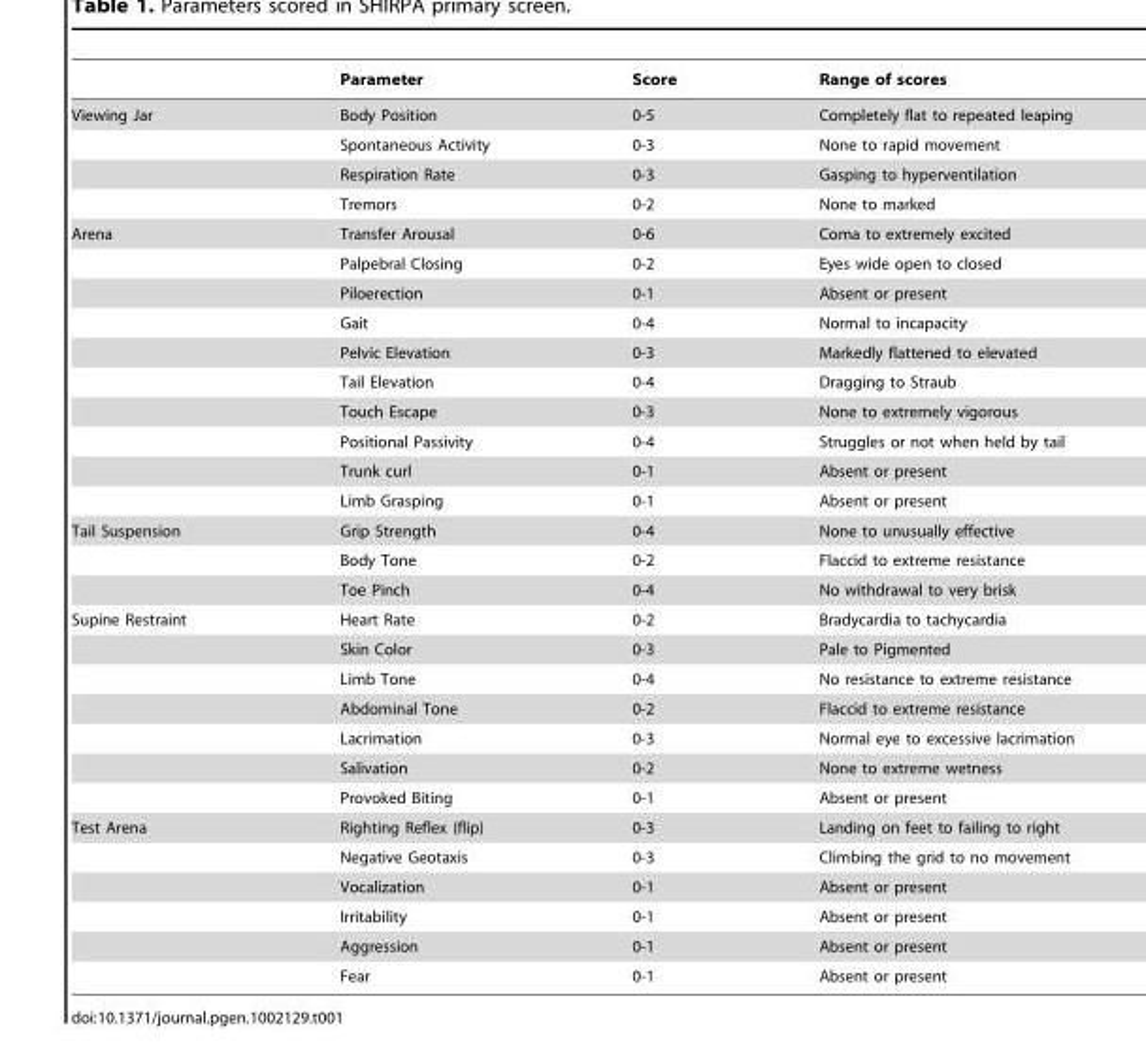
<table><thead><tr><td></td><td>Parameter</td><td>Score</td><td>Range of scores</td></tr></thead><tbody><tr><td rowspan="4">Viewing Jar</td><td>Body Position</td><td>0-5</td><td>Completely flat to repeated leaping</td></tr><tr><td>Spontaneous Activity</td><td>0-3</td><td>None to rapid movement</td></tr><tr><td>Respiration Rate</td><td>0-3</td><td>Gasping to hyperventilation</td></tr><tr><td>Tremors</td><td>0-2</td><td>None to marked</td></tr><tr><td rowspan="10">Arena</td><td>Transfer Arousal</td><td>0-6</td><td>Coma to extremely excited</td></tr><tr><td>Palpebral Closing</td><td>0-2</td><td>Eyes wide open to closed</td></tr><tr><td>Piloerection</td><td>0-1</td><td>Absent or present</td></tr><tr><td>Gait</td><td>0-4</td><td>Normal to incapacity</td></tr><tr><td>Pelvic Elevation</td><td>0-3</td><td>Markedly flattened to elevated</td></tr><tr><td>Tail Elevation</td><td>0-4</td><td>Dragging to Straub</td></tr><tr><td>Touch Escape</td><td>0-3</td><td>None to extremely vigorous</td></tr><tr><td>Positional Passivity</td><td>0-4</td><td>Struggles or not when held by tail</td></tr><tr><td>Trunk curl</td><td>0-1</td><td>Absent or present</td></tr><tr><td>Limb Grasping</td><td>0-1</td><td>Absent or present</td></tr><tr><td rowspan="3">Tail Suspension</td><td>Grip Strength</td><td>0-4</td><td>None to unusually effective</td></tr><tr><td>Body Tone</td><td>0-2</td><td>Flaccid to extreme resistance</td></tr><tr><td>Toe Pinch</td><td>0-4</td><td>No withdrawal to very brisk</td></tr><tr><td rowspan="7">Supine Restraint</td><td>Heart Rate</td><td>0-2</td><td>Bradycardia to tachycardia</td></tr><tr><td>Skin Color</td><td>0-3</td><td>Pale to Pigmented</td></tr><tr><td>Limb Tone</td><td>0-4</td><td>No resistance to extreme resistance</td></tr><tr><td>Abdominal Tone</td><td>0-2</td><td>Flaccid to extreme resistance</td></tr><tr><td>Lacrimation</td><td>0-3</td><td>Normal eye to excessive lacrimation</td></tr><tr><td>Salivation</td><td>0-2</td><td>None to extreme wetness</td></tr><tr><td>Provoked Biting</td><td>0-1</td><td>Absent or present</td></tr><tr><td rowspan="6">Test Arena</td><td>Righting Reflex (flip)</td><td>0-3</td><td>Landing on feet to failing to right</td></tr><tr><td>Negative Geotaxis</td><td>0-3</td><td>Climbing the grid to no movement</td></tr><tr><td>Vocalization</td><td>0-1</td><td>Absent or present</td></tr><tr><td>Irritability</td><td>0-1</td><td>Absent or present</td></tr><tr><td>Aggression</td><td>0-1</td><td>Absent or present</td></tr><tr><td>Fear</td><td>0-1</td><td>Absent or present</td></tr></tbody></table>